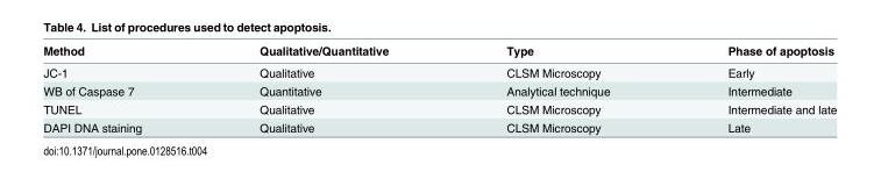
<table><thead><tr><td>Method</td><td>Qualitative/Quantitative</td><td>Type</td><td>Phase of apoptosis</td></tr></thead><tbody><tr><td>JC-1</td><td>Qualitative</td><td>CLSM Microscopy</td><td>Early</td></tr><tr><td>WB of Caspase 7</td><td>Quantitative</td><td>Analytical technique</td><td>Intermediate</td></tr><tr><td>TUNEL</td><td>Qualitative</td><td>CLSM Microscopy</td><td>Intermediate and late</td></tr><tr><td>DAPI DNA staining</td><td>Qualitative</td><td>CLSM Microscopy</td><td>Late</td></tr></tbody></table>